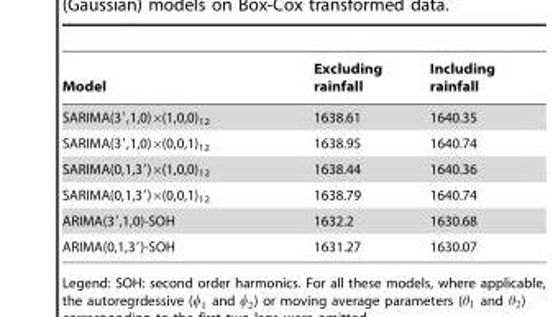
<table><thead><tr><td>Model</td><td>Excluding rainfall</td><td>Including rainfall</td></tr></thead><tbody><tr><td>SARIMA(3′,1,0)×(1,0,0)<sub>12</sub></td><td>1638.61</td><td>1640.35</td></tr><tr><td>SARIMA(3′,1,0)×(0,0,1)<sub>12</sub></td><td>1638.95</td><td>1640.74</td></tr><tr><td>SARIMA(0,1,3′)×(1,0,0)<sub>12</sub></td><td>1638.44</td><td>1640.36</td></tr><tr><td>SARIMA(0,1,3′)×(0,0,1)<sub>12</sub></td><td>1638.79</td><td>1640.74</td></tr><tr><td>ARIMA(3′,1,0)-SOH</td><td>1632.2</td><td>1630.68</td></tr><tr><td>ARIMA(0,1,3′)-SOH</td><td>1631.27</td><td>1630.07</td></tr></tbody></table>